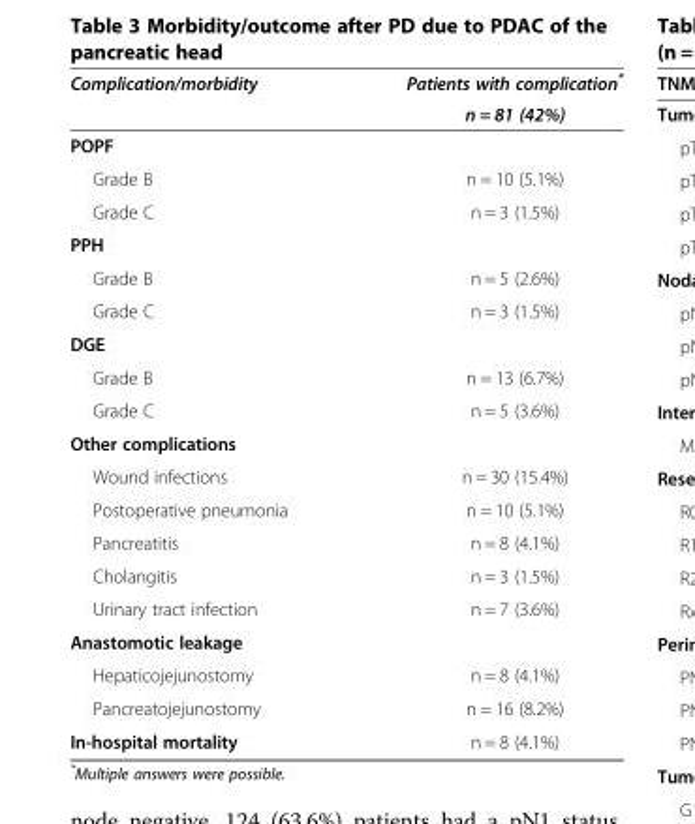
<table><thead><tr><td rowspan="2">Complication/morbidity</td><td rowspan="2">Patients with complication* n = 81 (42%)</td></tr><tr></tr></thead><tbody><tr><td colspan="2">POPF</td></tr><tr><td>Grade B</td><td>n = 10 (5.1%)</td></tr><tr><td>Grade C</td><td>n = 3 (1.5%)</td></tr><tr><td colspan="2">PPH</td></tr><tr><td>Grade B</td><td>n = 5 (2.6%)</td></tr><tr><td>Grade C</td><td>n = 3 (1.5%)</td></tr><tr><td colspan="2">DGE</td></tr><tr><td>Grade B</td><td>n = 13 (6.7%)</td></tr><tr><td>Grade C</td><td>n = 5 (3.6%)</td></tr><tr><td colspan="2">Other complications</td></tr><tr><td>Wound infections</td><td>n = 30 (15.4%)</td></tr><tr><td>Postoperative pneumonia</td><td>n = 10 (5.1%)</td></tr><tr><td>Pancreatitis</td><td>n = 8 (4.1%)</td></tr><tr><td>Cholangitis</td><td>n = 3 (1.5%)</td></tr><tr><td>Urinary tract infection</td><td>n = 7 (3.6%)</td></tr><tr><td colspan="2">Anastomotic leakage</td></tr><tr><td>Hepaticojejunostomy</td><td>n = 8 (4.1%)</td></tr><tr><td>Pancreatojejunostomy</td><td>n = 16 (8.2%)</td></tr><tr><td>In-hospital mortality</td><td>n = 8 (4.1%)</td></tr></tbody></table>